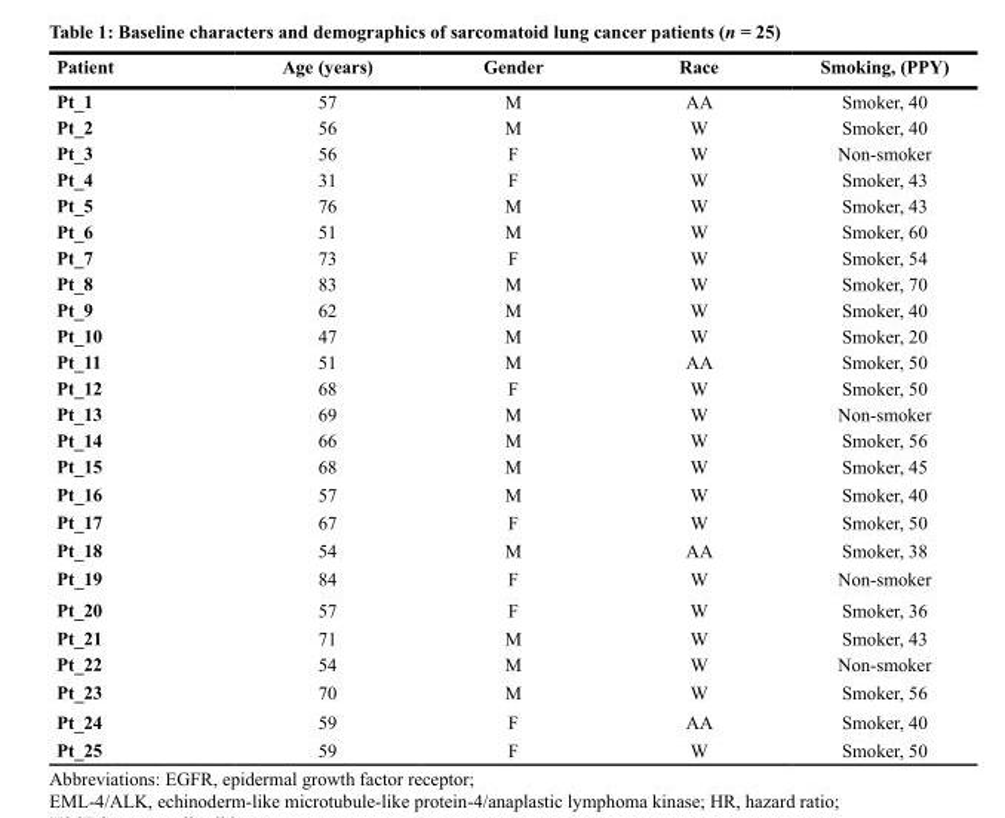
<table><thead><tr><td>Patient</td><td>Age (years)</td><td>Gender</td><td>Race</td><td>Smoking, (PPY)</td></tr></thead><tbody><tr><td>Pt_1</td><td>57</td><td>M</td><td>AA</td><td>Smoker, 40</td></tr><tr><td>Pt_2</td><td>56</td><td>M</td><td>W</td><td>Smoker, 40</td></tr><tr><td>Pt_3</td><td>56</td><td>F</td><td>W</td><td>Non-smoker</td></tr><tr><td>Pt_4</td><td>31</td><td>F</td><td>W</td><td>Smoker, 43</td></tr><tr><td>Pt_5</td><td>76</td><td>M</td><td>W</td><td>Smoker, 43</td></tr><tr><td>Pt_6</td><td>51</td><td>M</td><td>W</td><td>Smoker, 60</td></tr><tr><td>Pt_7</td><td>73</td><td>F</td><td>W</td><td>Smoker, 54</td></tr><tr><td>Pt_8</td><td>83</td><td>M</td><td>W</td><td>Smoker, 70</td></tr><tr><td>Pt_9</td><td>62</td><td>M</td><td>W</td><td>Smoker, 40</td></tr><tr><td>Pt_10</td><td>47</td><td>M</td><td>W</td><td>Smoker, 20</td></tr><tr><td>Pt_11</td><td>51</td><td>M</td><td>AA</td><td>Smoker, 50</td></tr><tr><td>Pt_12</td><td>68</td><td>F</td><td>W</td><td>Smoker, 50</td></tr><tr><td>Pt_13</td><td>69</td><td>M</td><td>W</td><td>Non-smoker</td></tr><tr><td>Pt_14</td><td>66</td><td>M</td><td>W</td><td>Smoker, 56</td></tr><tr><td>Pt_15</td><td>68</td><td>M</td><td>W</td><td>Smoker, 45</td></tr><tr><td>Pt_16</td><td>57</td><td>M</td><td>W</td><td>Smoker, 40</td></tr><tr><td>Pt_17</td><td>67</td><td>F</td><td>W</td><td>Smoker, 50</td></tr><tr><td>Pt_18</td><td>54</td><td>M</td><td>AA</td><td>Smoker, 38</td></tr><tr><td>Pt_19</td><td>84</td><td>F</td><td>W</td><td>Non-smoker</td></tr><tr><td>Pt_20</td><td>57</td><td>F</td><td>W</td><td>Smoker, 36</td></tr><tr><td>Pt_21</td><td>71</td><td>M</td><td>W</td><td>Smoker, 43</td></tr><tr><td>Pt_22</td><td>54</td><td>M</td><td>W</td><td>Non-smoker</td></tr><tr><td>Pt_23</td><td>70</td><td>M</td><td>W</td><td>Smoker, 56</td></tr><tr><td>Pt_24</td><td>59</td><td>F</td><td>AA</td><td>Smoker, 40</td></tr><tr><td>Pt_25</td><td>59</td><td>F</td><td>W</td><td>Smoker, 50</td></tr></tbody></table>